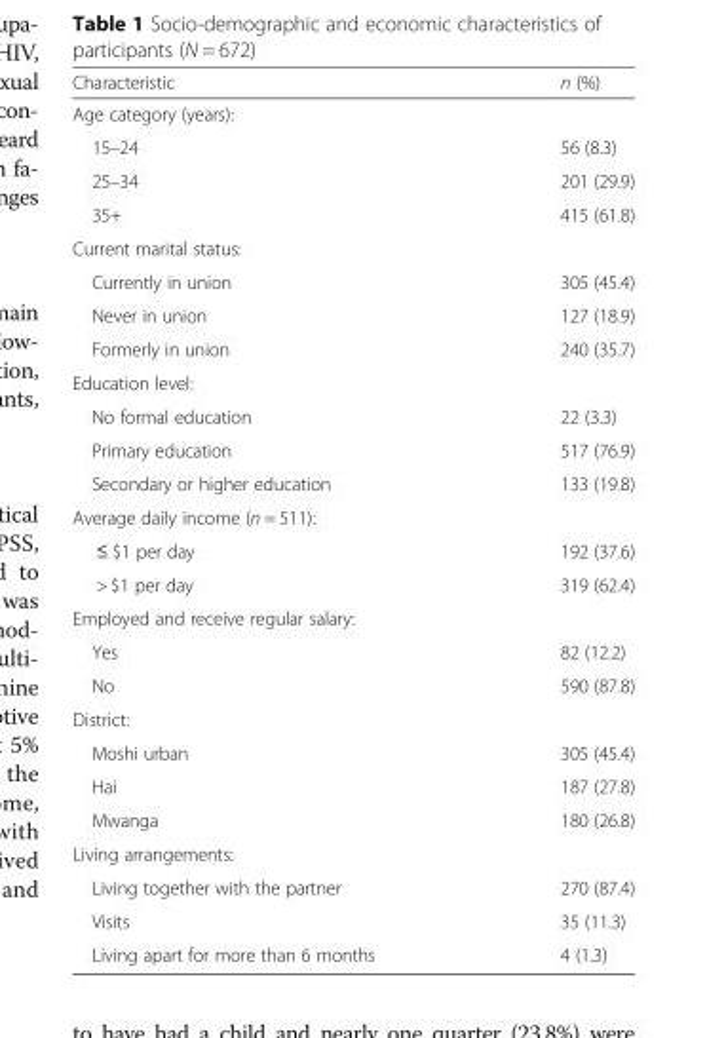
<table><thead><tr><td>Characteristic</td><td>n (%)</td></tr></thead><tbody><tr><td colspan="2">Age category (years):</td></tr><tr><td>15–24</td><td>56 (8.3)</td></tr><tr><td>25–34</td><td>201 (29.9)</td></tr><tr><td>35+</td><td>415 (61.8)</td></tr><tr><td colspan="2">Current marital status:</td></tr><tr><td>Currently in union</td><td>305 (45.4)</td></tr><tr><td>Never in union</td><td>127 (18.9)</td></tr><tr><td>Formerly in union</td><td>240 (35.7)</td></tr><tr><td colspan="2">Education level:</td></tr><tr><td>No formal education</td><td>22 (3.3)</td></tr><tr><td>Primary education</td><td>517 (76.9)</td></tr><tr><td>Secondary or higher education</td><td>133 (19.8)</td></tr><tr><td colspan="2">Average daily income (n = 511):</td></tr><tr><td>≤ $1 per day</td><td>192 (37.6)</td></tr><tr><td>&gt; $1 per day</td><td>319 (62.4)</td></tr><tr><td colspan="2">Employed and receive regular salary:</td></tr><tr><td>Yes</td><td>82 (12.2)</td></tr><tr><td>No</td><td>590 (87.8)</td></tr><tr><td colspan="2">District:</td></tr><tr><td>Moshi urban</td><td>305 (45.4)</td></tr><tr><td>Hai</td><td>187 (27.8)</td></tr><tr><td>Mwanga</td><td>180 (26.8)</td></tr><tr><td colspan="2">Living arrangements:</td></tr><tr><td>Living together with the partner</td><td>270 (87.4)</td></tr><tr><td>Visits</td><td>35 (11.3)</td></tr><tr><td>Living apart for more than 6 months</td><td>4 (1.3)</td></tr></tbody></table>